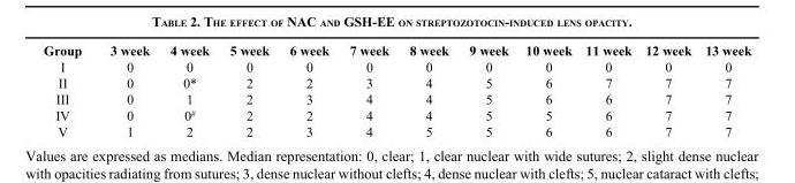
<table><tbody><tr><td>Group</td><td>3 week</td><td>4 week</td><td>5 week</td><td>6 week</td><td>7 week</td><td>8 week</td><td>9 week</td><td>10 week</td><td>11 week</td><td>12 week</td><td>13 week</td></tr><tr><td>I</td><td>0</td><td>0</td><td>0</td><td>0</td><td>0</td><td>0</td><td>0</td><td>0</td><td>0</td><td>0</td><td>0</td></tr><tr><td>II</td><td>0</td><td>0*</td><td>2</td><td>2</td><td>3</td><td>4</td><td>5</td><td>6</td><td>7</td><td>7</td><td>7</td></tr><tr><td>III</td><td>0</td><td>1</td><td>2</td><td>3</td><td>4</td><td>4</td><td>5</td><td>6</td><td>6</td><td>7</td><td>7</td></tr><tr><td>IV</td><td>0</td><td>0<sup>#</sup></td><td>2</td><td>2</td><td>4</td><td>4</td><td>5</td><td>5</td><td>6</td><td>7</td><td>7</td></tr><tr><td>V</td><td>1</td><td>2</td><td>2</td><td>3</td><td>4</td><td>5</td><td>5</td><td>6</td><td>6</td><td>7</td><td>7</td></tr></tbody></table>